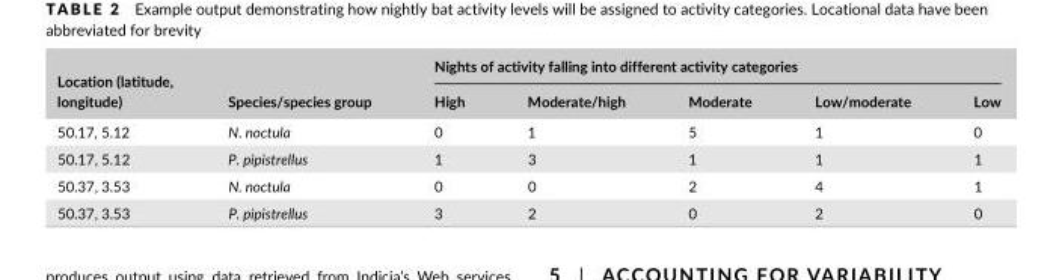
<table><thead><tr><td rowspan="2">Location (latitude, longitude)</td><td rowspan="2">Species/species group</td><td colspan="5">Nights of activity falling into different activity categories</td></tr><tr><td>High</td><td>Moderate/high</td><td>Moderate</td><td>Low/moderate</td><td>Low</td></tr></thead><tbody><tr><td>50.17, 5.12</td><td>N. noctula</td><td>0</td><td>1</td><td>5</td><td>1</td><td>0</td></tr><tr><td>50.17, 5.12</td><td>P. pipistrellus</td><td>1</td><td>3</td><td>1</td><td>1</td><td>1</td></tr><tr><td>50.37, 3.53</td><td>N. noctula</td><td>0</td><td>0</td><td>2</td><td>4</td><td>1</td></tr><tr><td>50.37, 3.53</td><td>P. pipistrellus</td><td>3</td><td>2</td><td>0</td><td>2</td><td>0</td></tr></tbody></table>